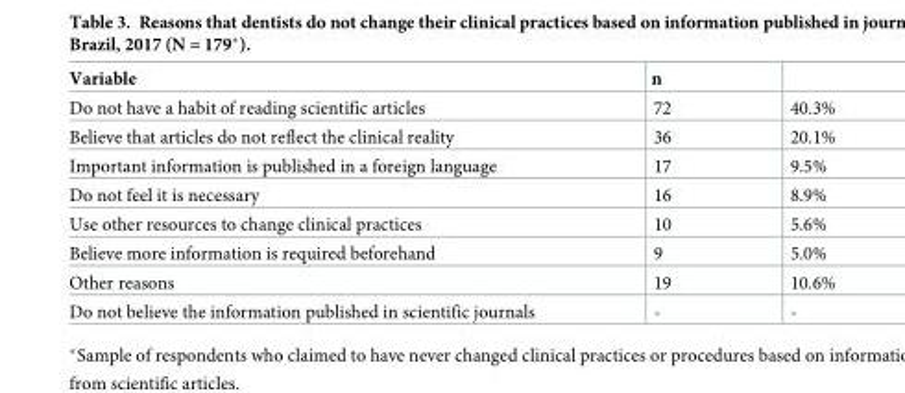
<table><thead><tr><td>Variable</td><td>n</td><td></td></tr></thead><tbody><tr><td>Do not have a habit of reading scientific articles</td><td>72</td><td>40.3%</td></tr><tr><td>Believe that articles do not reflect the clinical reality</td><td>36</td><td>20.1%</td></tr><tr><td>Important information is published in a foreign language</td><td>17</td><td>9.5%</td></tr><tr><td>Do not feel it is necessary</td><td>16</td><td>8.9%</td></tr><tr><td>Use other resources to change clinical practices</td><td>10</td><td>5.6%</td></tr><tr><td>Believe more information is required beforehand</td><td>9</td><td>5.0%</td></tr><tr><td>Other reasons</td><td>19</td><td>10.6%</td></tr><tr><td>Do not believe the information published in scientific journals</td><td>-</td><td>-</td></tr></tbody></table>